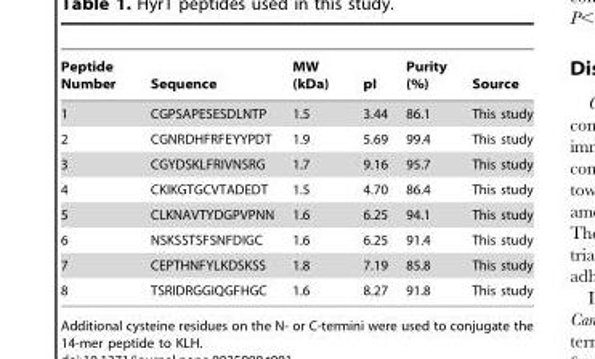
<table><thead><tr><td>Peptide Number</td><td>Sequence</td><td>MW (kDa)</td><td>pI</td><td>Purity (%)</td><td>Source</td></tr></thead><tbody><tr><td>1</td><td>CGPSAPESESDLNTP</td><td>1.5</td><td>3.44</td><td>86.1</td><td>This study</td></tr><tr><td>2</td><td>CGNRDHFRFEYYPDT</td><td>1.9</td><td>5.69</td><td>99.4</td><td>This study</td></tr><tr><td>3</td><td>CGYDSKLFRIVNSRG</td><td>1.7</td><td>9.16</td><td>95.7</td><td>This study</td></tr><tr><td>4</td><td>CKIKGTGCVTADEDT</td><td>1.5</td><td>4.70</td><td>86.4</td><td>This study</td></tr><tr><td>5</td><td>CLKNAVTYDGPVPNN</td><td>1.6</td><td>6.25</td><td>94.1</td><td>This study</td></tr><tr><td>6</td><td>NSKSSTSFSNFDIGC</td><td>1.6</td><td>6.25</td><td>91.4</td><td>This study</td></tr><tr><td>7</td><td>CEPTHNFYLKDSKSS</td><td>1.8</td><td>7.19</td><td>85.8</td><td>This study</td></tr><tr><td>8</td><td>TSRIDRGGIQGFHGC</td><td>1.6</td><td>8.27</td><td>91.8</td><td>This study</td></tr></tbody></table>